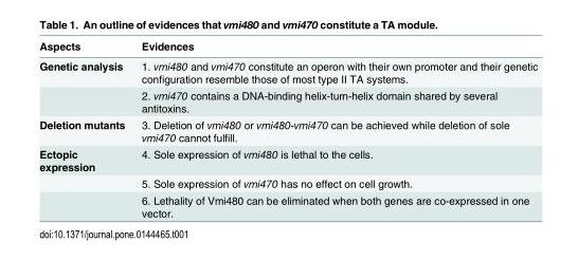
<table><thead><tr><td>Aspects</td><td>Evidences</td></tr></thead><tbody><tr><td rowspan="2">Genetic analysis</td><td>1. vmi480 and vmi470 constitute an operon with their own promoter and their genetic configuration resemble those of most type II TA systems.</td></tr><tr><td>2. vmi470 contains a DNA-binding helix-turn-helix domain shared by several antitoxins.</td></tr><tr><td>Deletion mutants</td><td>3. Deletion of vmi480 or vmi480-vmi470 can be achieved while deletion of sole vmi470 cannot fulfill.</td></tr><tr><td rowspan="3">Ectopic expression</td><td>4. Sole expression of vmi480 is lethal to the cells.</td></tr><tr><td>5. Sole expression of vmi470 has no effect on cell growth.</td></tr><tr><td>6. Lethality of Vmi480 can be eliminated when both genes are co-expressed in one vector.</td></tr></tbody></table>